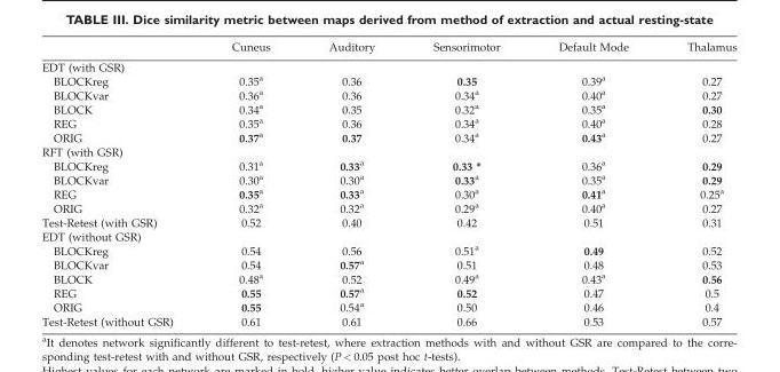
<table><thead><tr><td></td><td>Cuneus</td><td>Auditory</td><td>Sensorimotor</td><td>Default Mode</td><td>Thalamus</td></tr></thead><tbody><tr><td colspan="6">EDT (with GSR)</td></tr><tr><td>BLOCKreg</td><td>0.35<sup>a</sup></td><td>0.36</td><td>0.35</td><td>0.39<sup>a</sup></td><td>0.27</td></tr><tr><td>BLOCKvar</td><td>0.36<sup>a</sup></td><td>0.36</td><td>0.34<sup>a</sup></td><td>0.40<sup>a</sup></td><td>0.27</td></tr><tr><td>BLOCK</td><td>0.34<sup>a</sup></td><td>0.35</td><td>0.32<sup>a</sup></td><td>0.35<sup>a</sup></td><td>0.30</td></tr><tr><td>REG</td><td>0.35<sup>a</sup></td><td>0.36</td><td>0.34<sup>a</sup></td><td>0.40<sup>a</sup></td><td>0.28</td></tr><tr><td>ORIG</td><td>0.37a</td><td>0.37</td><td>0.34<sup>a</sup></td><td>0.43a</td><td>0.27</td></tr><tr><td colspan="6">RFT (with GSR)</td></tr><tr><td>BLOCKreg</td><td>0.31<sup>a</sup></td><td>0.33a</td><td>0.33 *</td><td>0.36<sup>a</sup></td><td>0.29</td></tr><tr><td>BLOCKvar</td><td>0.30<sup>a</sup></td><td>0.30<sup>a</sup></td><td>0.33a</td><td>0.35<sup>a</sup></td><td>0.29</td></tr><tr><td>REG</td><td>0.35a</td><td>0.33a</td><td>0.30<sup>a</sup></td><td>0.41a</td><td>0.25<sup>a</sup></td></tr><tr><td>ORIG</td><td>0.32<sup>a</sup></td><td>0.32<sup>a</sup></td><td>0.29<sup>a</sup></td><td>0.40<sup>a</sup></td><td>0.27</td></tr><tr><td>Test-Retest (with GSR)</td><td>0.52</td><td>0.40</td><td>0.42</td><td>0.51</td><td>0.31</td></tr><tr><td colspan="6">EDT (without GSR)</td></tr><tr><td>BLOCKreg</td><td>0.54</td><td>0.56</td><td>0.51<sup>a</sup></td><td>0.49</td><td>0.52</td></tr><tr><td>BLOCKvar</td><td>0.54</td><td>0.57a</td><td>0.51</td><td>0.48</td><td>0.53</td></tr><tr><td>BLOCK</td><td>0.48<sup>a</sup></td><td>0.52</td><td>0.49<sup>a</sup></td><td>0.43<sup>a</sup></td><td>0.56</td></tr><tr><td>REG</td><td>0.55</td><td>0.57a</td><td>0.52</td><td>0.47</td><td>0.5</td></tr><tr><td>ORIG</td><td>0.55</td><td>0.54<sup>a</sup></td><td>0.50</td><td>0.46</td><td>0.4</td></tr><tr><td>Test-Retest (without GSR)</td><td>0.61</td><td>0.61</td><td>0.66</td><td>0.53</td><td>0.57</td></tr></tbody></table>